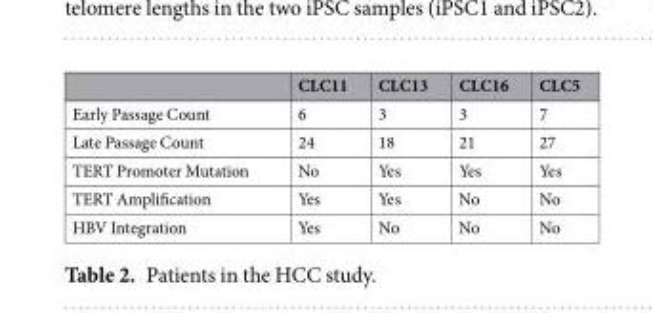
<table><thead><tr><td></td><td>CLC11</td><td>CLC13</td><td>CLC16</td><td>CLC5</td></tr></thead><tbody><tr><td>Early Passage Count</td><td>6</td><td>3</td><td>3</td><td>7</td></tr><tr><td>Late Passage Count</td><td>24</td><td>18</td><td>21</td><td>27</td></tr><tr><td>TERT Promoter Mutation</td><td>No</td><td>Yes</td><td>Yes</td><td>Yes</td></tr><tr><td>TERT Amplification</td><td>Yes</td><td>Yes</td><td>No</td><td>No</td></tr><tr><td>HBV Integration</td><td>Yes</td><td>No</td><td>No</td><td>No</td></tr></tbody></table>